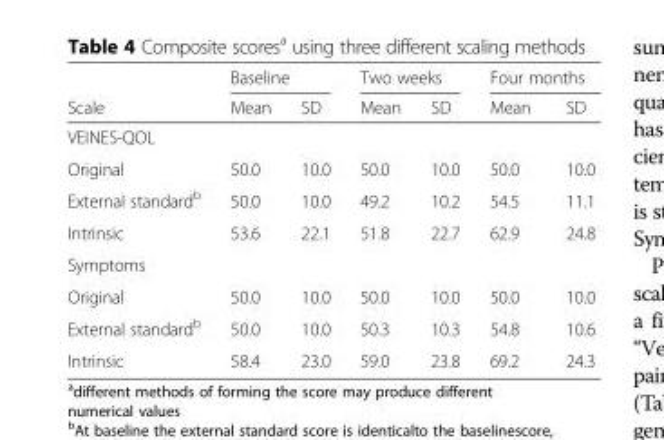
<table><thead><tr><td rowspan="2">Scale</td><td colspan="2">Baseline</td><td colspan="2">Two weeks</td><td colspan="2">Four months</td></tr><tr><td>Mean</td><td>SD</td><td>Mean</td><td>SD</td><td>Mean</td><td>SD</td></tr></thead><tbody><tr><td colspan="7">VEINES-QOL</td></tr><tr><td>Original</td><td>50.0</td><td>10.0</td><td>50.0</td><td>10.0</td><td>50.0</td><td>10.0</td></tr><tr><td>External standard<sup>b</sup></td><td>50.0</td><td>10.0</td><td>49.2</td><td>10.2</td><td>54.5</td><td>11.1</td></tr><tr><td>Intrinsic</td><td>53.6</td><td>22.1</td><td>51.8</td><td>22.7</td><td>62.9</td><td>24.8</td></tr><tr><td colspan="7">Symptoms</td></tr><tr><td>Original</td><td>50.0</td><td>10.0</td><td>50.0</td><td>10.0</td><td>50.0</td><td>10.0</td></tr><tr><td>External standard<sup>b</sup></td><td>50.0</td><td>10.0</td><td>50.3</td><td>10.3</td><td>54.8</td><td>10.6</td></tr><tr><td>Intrinsic</td><td>58.4</td><td>23.0</td><td>59.0</td><td>23.8</td><td>69.2</td><td>24.3</td></tr></tbody></table>